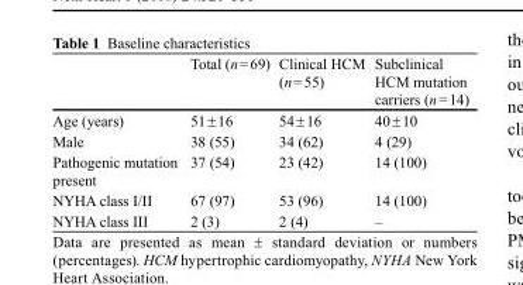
<table><thead><tr><td></td><td>Total (n = 69)</td><td>Clinical HCM (n = 55)</td><td>Subclinical HCM mutation carriers (n = 14)</td></tr></thead><tbody><tr><td>Age (years)</td><td>51 ± 16</td><td>54 ± 16</td><td>40 ± 10</td></tr><tr><td>Male</td><td>38 (55)</td><td>34 (62)</td><td>4 (29)</td></tr><tr><td>Pathogenic mutation present</td><td>37 (54)</td><td>23 (42)</td><td>14 (100)</td></tr><tr><td>NYHA class I/II</td><td>67 (97)</td><td>53 (96)</td><td>14 (100)</td></tr><tr><td>NYHA class III</td><td>2 (3)</td><td>2 (4)</td><td>–</td></tr></tbody></table>